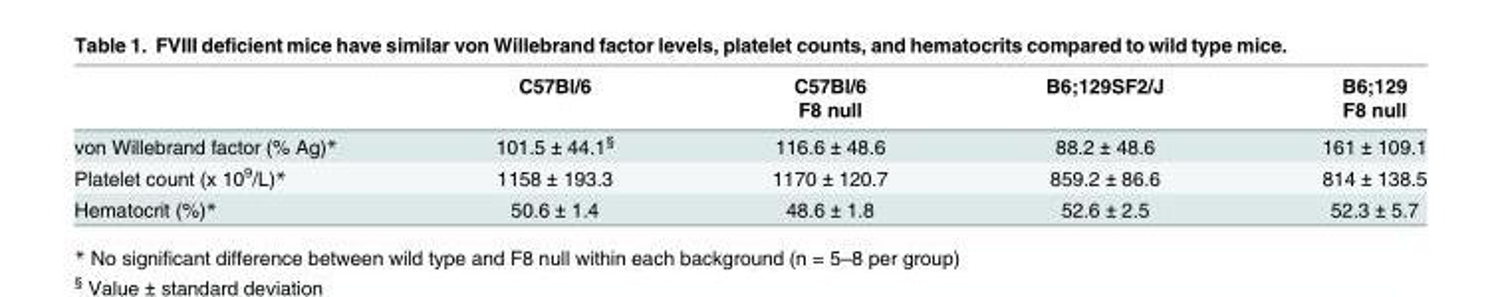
<table><thead><tr><td rowspan="2"></td><td rowspan="2">C57Bl/6</td><td rowspan="2">C57Bl/6 F8 null</td><td rowspan="2">B6;129SF2/J</td><td rowspan="2">B6;129 F8 null</td></tr><tr></tr></thead><tbody><tr><td>von Willebrand factor (% Ag)*</td><td>101.5 ± 44.1<sup>§</sup></td><td>116.6 ± 48.6</td><td>88.2 ± 48.6</td><td>161 ± 109.1</td></tr><tr><td>Platelet count (x 10<sup>9</sup>/L)*</td><td>1158 ± 193.3</td><td>1170 ± 120.7</td><td>859.2 ± 86.6</td><td>814 ± 138.5</td></tr><tr><td>Hematocrit (%)*</td><td>50.6 ± 1.4</td><td>48.6 ± 1.8</td><td>52.6 ± 2.5</td><td>52.3 ± 5.7</td></tr></tbody></table>